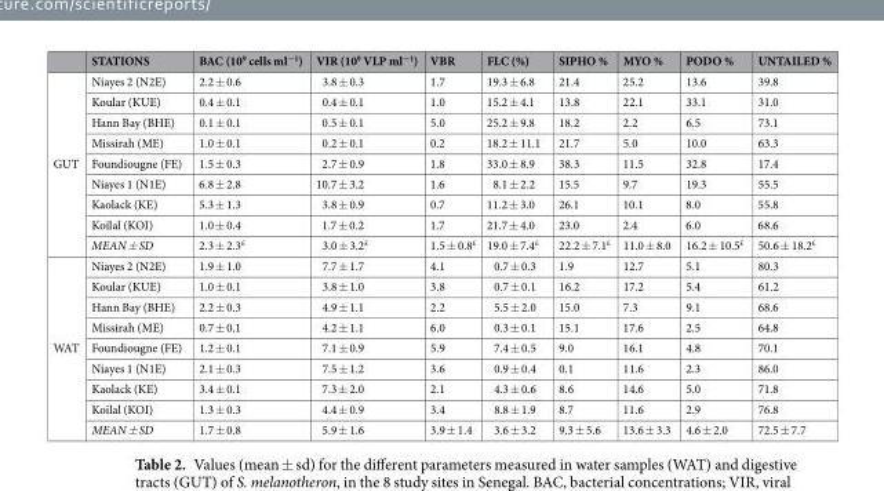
<table><thead><tr><td></td><td>STATIONS</td><td>BAC (10<sup>9</sup> cells ml<sup>−1</sup>)</td><td>VIR (10<sup>9</sup> VLP ml<sup>−1</sup>)</td><td>VBR</td><td>FLC (%)</td><td>SIPHO %</td><td>MYO %</td><td>PODO %</td><td>UNTAILED %</td></tr></thead><tbody><tr><td rowspan="9">GUT</td><td>Niayes 2 (N2E)</td><td>2.2 ± 0.6</td><td>3.8 ± 0.3</td><td>1.7</td><td>19.3 ± 6.8</td><td>21.4</td><td>25.2</td><td>13.6</td><td>39.8</td></tr><tr><td>Koular (KUE)</td><td>0.4 ± 0.1</td><td>0.4 ± 0.1</td><td>1.0</td><td>15.2 ± 4.1</td><td>13.8</td><td>22.1</td><td>33.1</td><td>31.0</td></tr><tr><td>Hann Bay (BHE)</td><td>0.1 ± 0.1</td><td>0.5 ± 0.1</td><td>5.0</td><td>25.2 ± 9.8</td><td>18.2</td><td>2.2</td><td>6.5</td><td>73.1</td></tr><tr><td>Missirah (ME)</td><td>1.0 ± 0.1</td><td>0.2 ± 0.1</td><td>0.2</td><td>18.2 ± 11.1</td><td>21.7</td><td>5.0</td><td>10.0</td><td>63.3</td></tr><tr><td>Foundiougne (FE)</td><td>1.5 ± 0.3</td><td>2.7 ± 0.9</td><td>1.8</td><td>33.0 ± 8.9</td><td>38.3</td><td>11.5</td><td>32.8</td><td>17.4</td></tr><tr><td>Niayes 1 (N1E)</td><td>6.8 ± 2.8</td><td>10.7 ± 3.2</td><td>1.6</td><td>8.1 ± 2.2</td><td>15.5</td><td>9.7</td><td>19.3</td><td>55.5</td></tr><tr><td>Kaolack (KE)</td><td>5.3 ± 1.3</td><td>3.8 ± 0.9</td><td>0.7</td><td>11.2 ± 3.0</td><td>26.1</td><td>10.1</td><td>8.0</td><td>55.8</td></tr><tr><td>Koïlal (KOI)</td><td>1.0 ± 0.4</td><td>1.7 ± 0.2</td><td>1.7</td><td>21.7 ± 4.0</td><td>23.0</td><td>2.4</td><td>6.0</td><td>68.6</td></tr><tr><td>MEAN ± SD</td><td>2.3 ± 2.3<sup>£</sup></td><td>3.0 ± 3.2<sup>£</sup></td><td>1.5 ± 0.8<sup>£</sup></td><td>19.0 ± 7.4<sup>£</sup></td><td>22.2 ± 7.1<sup>£</sup></td><td>11.0 ± 8.0</td><td>16.2 ± 10.5<sup>£</sup></td><td>50.6 ± 18.2<sup>£</sup></td></tr><tr><td rowspan="9">WAT</td><td>Niayes 2 (N2E)</td><td>1.9 ± 1.0</td><td>7.7 ± 1.7</td><td>4.1</td><td>0.7 ± 0.3</td><td>1.9</td><td>12.7</td><td>5.1</td><td>80.3</td></tr><tr><td>Koular (KUE)</td><td>1.0 ± 0.1</td><td>3.8 ± 1.0</td><td>3.8</td><td>0.7 ± 0.1</td><td>16.2</td><td>17.2</td><td>5.4</td><td>61.2</td></tr><tr><td>Hann Bay (BHE)</td><td>2.2 ± 0.3</td><td>4.9 ± 1.1</td><td>2.2</td><td>5.5 ± 2.0</td><td>15.0</td><td>7.3</td><td>9.1</td><td>68.6</td></tr><tr><td>Missirah (ME)</td><td>0.7 ± 0.1</td><td>4.2 ± 1.1</td><td>6.0</td><td>0.3 ± 0.1</td><td>15.1</td><td>17.6</td><td>2.5</td><td>64.8</td></tr><tr><td>Foundiougne (FE)</td><td>1.2 ± 0.1</td><td>7.1 ± 0.9</td><td>5.9</td><td>7.4 ± 0.5</td><td>9.0</td><td>16.1</td><td>4.8</td><td>70.1</td></tr><tr><td>Niayes 1 (N1E)</td><td>2.1 ± 0.3</td><td>7.5 ± 1.2</td><td>3.6</td><td>0.9 ± 0.4</td><td>0.1</td><td>11.6</td><td>2.3</td><td>86.0</td></tr><tr><td>Kaolack (KE)</td><td>3.4 ± 0.1</td><td>7.3 ± 2.0</td><td>2.1</td><td>4.3 ± 0.6</td><td>8.6</td><td>14.6</td><td>5.0</td><td>71.8</td></tr><tr><td>Koïlal (KOI)</td><td>1.3 ± 0.3</td><td>4.4 ± 0.9</td><td>3.4</td><td>8.8 ± 1.9</td><td>8.7</td><td>11.6</td><td>2.9</td><td>76.8</td></tr><tr><td>MEAN ± SD</td><td>1.7 ± 0.8</td><td>5.9 ± 1.6</td><td>3.9 ± 1.4</td><td>3.6 ± 3.2</td><td>9.3 ± 5.6</td><td>13.6 ± 3.3</td><td>4.6 ± 2.0</td><td>72.5 ± 7.7</td></tr></tbody></table>